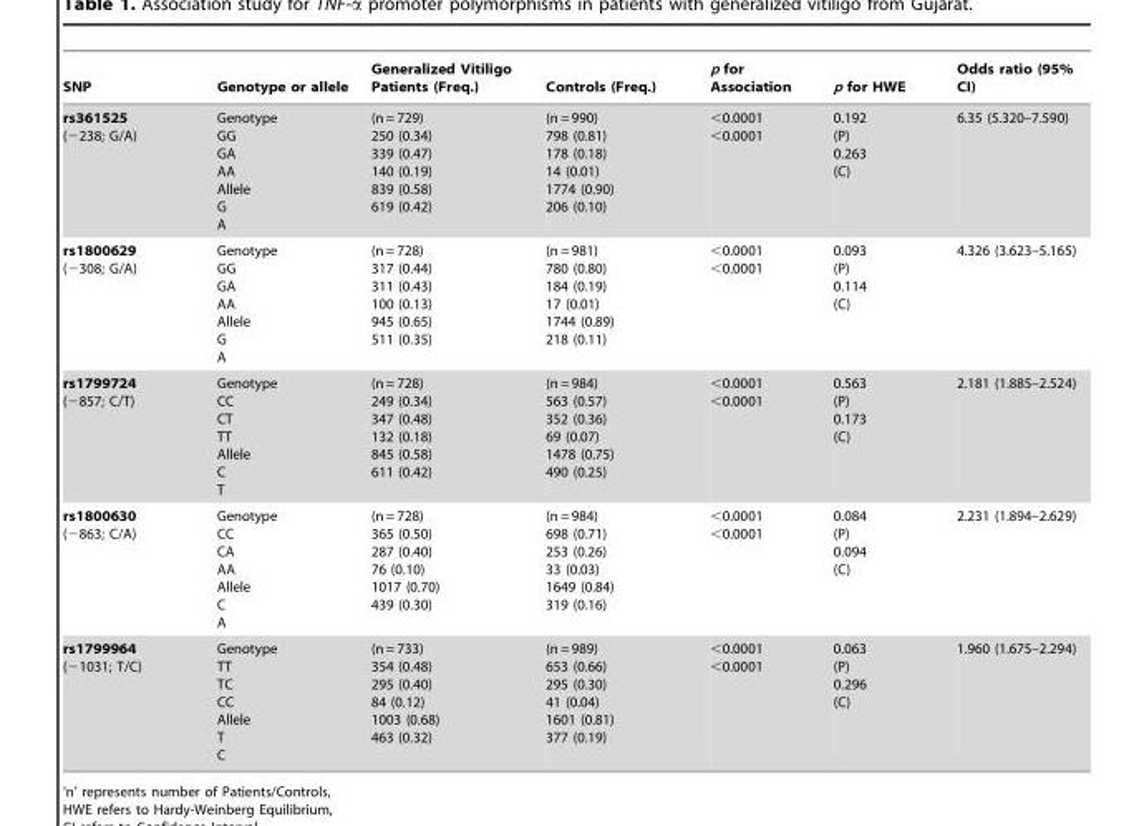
<table><thead><tr><td>SNP</td><td>Genotype or allele</td><td>Generalized Vitiligo Patients (Freq.)</td><td>Controls (Freq.)</td><td>p for Association</td><td>p for HWE</td><td>Odds ratio (95% CI)</td></tr></thead><tbody><tr><td>rs361525 (−238; G/A)</td><td>Genotype GG GA AA Allele G A</td><td>(n = 729) 250 (0.34) 339 (0.47) 140 (0.19) 839 (0.58) 619 (0.42)</td><td>(n = 990) 798 (0.81) 178 (0.18) 14 (0.01) 1774 (0.90) 206 (0.10)</td><td>&lt;0.0001 &lt;0.0001</td><td>0.192 (P) 0.263 (C)</td><td>6.35 (5.320–7.590)</td></tr><tr><td>rs1800629 (−308; G/A)</td><td>Genotype GG GA AA Allele G A</td><td>(n = 728) 317 (0.44) 311 (0.43) 100 (0.13) 945 (0.65) 511 (0.35)</td><td>(n = 981) 780 (0.80) 184 (0.19) 17 (0.01) 1744 (0.89) 218 (0.11)</td><td>&lt;0.0001 &lt;0.0001</td><td>0.093 (P) 0.114 (C)</td><td>4.326 (3.623–5.165)</td></tr><tr><td>rs1799724 (−857; C/T)</td><td>Genotype CC CT TT Allele C T</td><td>(n = 728) 249 (0.34) 347 (0.48) 132 (0.18) 845 (0.58) 611 (0.42)</td><td>(n = 984) 563 (0.57) 352 (0.36) 69 (0.07) 1478 (0.75) 490 (0.25)</td><td>&lt;0.0001 &lt;0.0001</td><td>0.563 (P) 0.173 (C)</td><td>2.181 (1.885–2.524)</td></tr><tr><td>rs1800630 (−863; C/A)</td><td>Genotype CC CA AA Allele C A</td><td>(n = 728) 365 (0.50) 287 (0.40) 76 (0.10) 1017 (0.70) 439 (0.30)</td><td>(n = 984) 698 (0.71) 253 (0.26) 33 (0.03) 1649 (0.84) 319 (0.16)</td><td>&lt;0.0001 &lt;0.0001</td><td>0.084 (P) 0.094 (C)</td><td>2.231 (1.894–2.629)</td></tr><tr><td>rs1799964 (−1031; T/C)</td><td>Genotype TT TC CC Allele T C</td><td>(n = 733) 354 (0.48) 295 (0.40) 84 (0.12) 1003 (0.68) 463 (0.32)</td><td>(n = 989) 653 (0.66) 295 (0.30) 41 (0.04) 1601 (0.81) 377 (0.19)</td><td>&lt;0.0001 &lt;0.0001</td><td>0.063 (P) 0.296 (C)</td><td>1.960 (1.675–2.294)</td></tr></tbody></table>